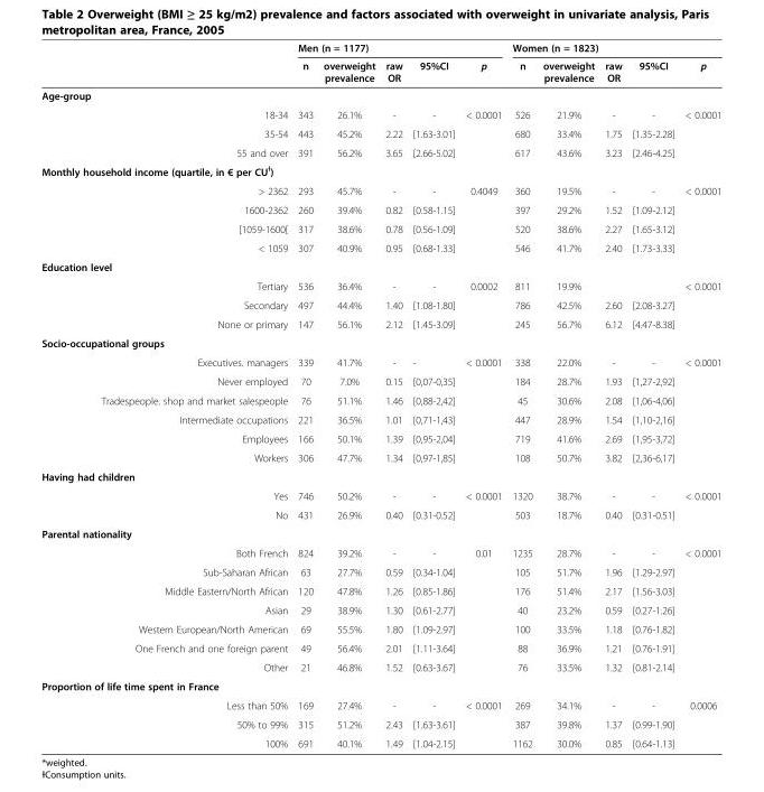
<table><thead><tr><td rowspan="2"></td><td rowspan="2"></td><td colspan="5">Men (n = 1177)</td><td colspan="5">Women (n = 1823)</td></tr><tr><td>n</td><td>overweight prevalence</td><td>raw OR</td><td>95%CI</td><td>p</td><td>n</td><td>overweight prevalence</td><td>raw OR</td><td>95%CI</td><td>p</td></tr></thead><tbody><tr><td colspan="12">Age-group</td></tr><tr><td></td><td>18-34</td><td>343</td><td>26.1%</td><td>-</td><td>-</td><td>&lt; 0.0001</td><td>526</td><td>21.9%</td><td>-</td><td>-</td><td>&lt; 0.0001</td></tr><tr><td></td><td>35-54</td><td>443</td><td>45.2%</td><td>2.22</td><td>[1.63-3.01]</td><td></td><td>680</td><td>33.4%</td><td>1.75</td><td>[1.35-2.28]</td><td></td></tr><tr><td></td><td>55 and over</td><td>391</td><td>56.2%</td><td>3.65</td><td>[2.66-5.02]</td><td></td><td>617</td><td>43.6%</td><td>3.23</td><td>[2.46-4.25]</td><td></td></tr><tr><td colspan="12">Monthly household income (quartile, in € per CU<sup>Ɨ</sup>)</td></tr><tr><td></td><td>&gt; 2362</td><td>293</td><td>45.7%</td><td>-</td><td>-</td><td>0.4049</td><td>360</td><td>19.5%</td><td>-</td><td>-</td><td>&lt; 0.0001</td></tr><tr><td></td><td>1600-2362</td><td>260</td><td>39.4%</td><td>0.82</td><td>[0.58-1.15]</td><td></td><td>397</td><td>29.2%</td><td>1.52</td><td>[1.09-2.12]</td><td></td></tr><tr><td></td><td>[1059-1600[</td><td>317</td><td>38.6%</td><td>0.78</td><td>[0.56-1.09]</td><td></td><td>520</td><td>38.6%</td><td>2.27</td><td>[1.65-3.12]</td><td></td></tr><tr><td></td><td>&lt; 1059</td><td>307</td><td>40.9%</td><td>0.95</td><td>[0.68-1.33]</td><td></td><td>546</td><td>41.7%</td><td>2.40</td><td>[1.73-3.33]</td><td></td></tr><tr><td colspan="12">Education level</td></tr><tr><td></td><td>Tertiary</td><td>536</td><td>36.4%</td><td>-</td><td>-</td><td>0.0002</td><td>811</td><td>19.9%</td><td></td><td></td><td>&lt; 0.0001</td></tr><tr><td></td><td>Secondary</td><td>497</td><td>44.4%</td><td>1.40</td><td>[1.08-1.80]</td><td></td><td>786</td><td>42.5%</td><td>2.60</td><td>[2.08-3.27]</td><td></td></tr><tr><td></td><td>None or primary</td><td>147</td><td>56.1%</td><td>2.12</td><td>[1.45-3.09]</td><td></td><td>245</td><td>56.7%</td><td>6.12</td><td>[4.47-8.38]</td><td></td></tr><tr><td colspan="12">Socio-occupational groups</td></tr><tr><td></td><td>Executives. managers</td><td>339</td><td>41.7%</td><td>-</td><td>-</td><td>&lt; 0.0001</td><td>338</td><td>22.0%</td><td>-</td><td>-</td><td>&lt; 0.0001</td></tr><tr><td></td><td>Never employed</td><td>70</td><td>7.0%</td><td>0.15</td><td>[0,07-0,35]</td><td></td><td>184</td><td>28.7%</td><td>1.93</td><td>[1,27-2,92]</td><td></td></tr><tr><td></td><td>Tradespeople. shop and market salespeople</td><td>76</td><td>51.1%</td><td>1.46</td><td>[0,88-2,42]</td><td></td><td>45</td><td>30.6%</td><td>2.08</td><td>[1,06-4,06]</td><td></td></tr><tr><td></td><td>Intermediate occupations</td><td>221</td><td>36.5%</td><td>1.01</td><td>[0,71-1,43]</td><td></td><td>447</td><td>28.9%</td><td>1.54</td><td>[1,10-2,16]</td><td></td></tr><tr><td></td><td>Employees</td><td>166</td><td>50.1%</td><td>1.39</td><td>[0,95-2,04]</td><td></td><td>719</td><td>41.6%</td><td>2.69</td><td>[1,95-3,72]</td><td></td></tr><tr><td></td><td>Workers</td><td>306</td><td>47.7%</td><td>1.34</td><td>[0,97-1,85]</td><td></td><td>108</td><td>50.7%</td><td>3.82</td><td>[2,36-6,17]</td><td></td></tr><tr><td colspan="12">Having had children</td></tr><tr><td></td><td>Yes</td><td>746</td><td>50.2%</td><td>-</td><td>-</td><td>&lt; 0.0001</td><td>1320</td><td>38.7%</td><td>-</td><td>-</td><td>&lt; 0.0001</td></tr><tr><td></td><td>No</td><td>431</td><td>26.9%</td><td>0.40</td><td>[0.31-0.52]</td><td></td><td>503</td><td>18.7%</td><td>0.40</td><td>[0.31-0.51]</td><td></td></tr><tr><td colspan="12">Parental nationality</td></tr><tr><td></td><td>Both French</td><td>824</td><td>39.2%</td><td>-</td><td>-</td><td>0.01</td><td>1235</td><td>28.7%</td><td>-</td><td>-</td><td>&lt; 0.0001</td></tr><tr><td></td><td>Sub-Saharan African</td><td>63</td><td>27.7%</td><td>0.59</td><td>[0.34-1.04]</td><td></td><td>105</td><td>51.7%</td><td>1.96</td><td>[1.29-2.97]</td><td></td></tr><tr><td></td><td>Middle Eastern/North African</td><td>120</td><td>47.8%</td><td>1.26</td><td>[0.85-1.86]</td><td></td><td>176</td><td>51.4%</td><td>2.17</td><td>[1.56-3.03]</td><td></td></tr><tr><td></td><td>Asian</td><td>29</td><td>38.9%</td><td>1.30</td><td>[0.61-2.77]</td><td></td><td>40</td><td>23.2%</td><td>0.59</td><td>[0.27-1.26]</td><td></td></tr><tr><td></td><td>Western European/North American</td><td>69</td><td>55.5%</td><td>1.80</td><td>[1.09-2.97]</td><td></td><td>100</td><td>33.5%</td><td>1.18</td><td>[0.76-1.82]</td><td></td></tr><tr><td></td><td>One French and one foreign parent</td><td>49</td><td>56.4%</td><td>2.01</td><td>[1.11-3.64]</td><td></td><td>88</td><td>36.9%</td><td>1.21</td><td>[0.76-1.91]</td><td></td></tr><tr><td></td><td>Other</td><td>21</td><td>46.8%</td><td>1.52</td><td>[0.63-3.67]</td><td></td><td>76</td><td>33.5%</td><td>1.32</td><td>[0.81-2.14]</td><td></td></tr><tr><td colspan="12">Proportion of life time spent in France</td></tr><tr><td></td><td>Less than 50%</td><td>169</td><td>27.4%</td><td>-</td><td>-</td><td>&lt; 0.0001</td><td>269</td><td>34.1%</td><td>-</td><td>-</td><td>0.0006</td></tr><tr><td></td><td>50% to 99%</td><td>315</td><td>51.2%</td><td>2.43</td><td>[1.63-3.61]</td><td></td><td>387</td><td>39.8%</td><td>1.37</td><td>[0.99-1.90]</td><td></td></tr><tr><td></td><td>100%</td><td>691</td><td>40.1%</td><td>1.49</td><td>[1.04-2.15]</td><td></td><td>1162</td><td>30.0%</td><td>0.85</td><td>[0.64-1.13]</td><td></td></tr></tbody></table>